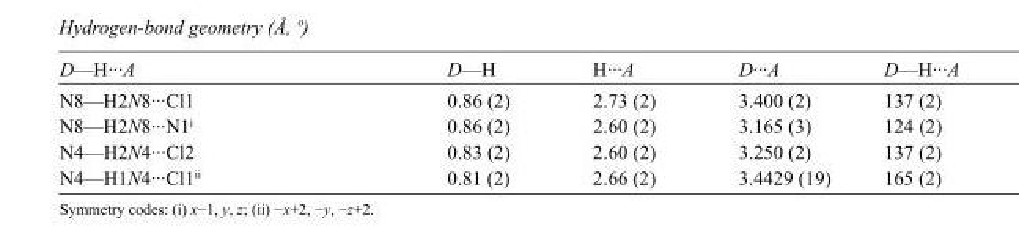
<table><tbody><tr><td>D—H···A</td><td>D—H</td><td>H···A</td><td>D···A</td><td>D—H···A</td></tr><tr><td>N8—H2N8···Cl1</td><td>0.86 (2)</td><td>2.73 (2)</td><td>3.400 (2)</td><td>137 (2)</td></tr><tr><td>N8—H2N8···N1<sup>i</sup></td><td>0.86 (2)</td><td>2.60 (2)</td><td>3.165 (3)</td><td>124 (2)</td></tr><tr><td>N4—H2N4···Cl2</td><td>0.83 (2)</td><td>2.60 (2)</td><td>3.250 (2)</td><td>137 (2)</td></tr><tr><td>N4—H1N4···Cl1<sup>ii</sup></td><td>0.81 (2)</td><td>2.66 (2)</td><td>3.4429 (19)</td><td>165 (2)</td></tr></tbody></table>